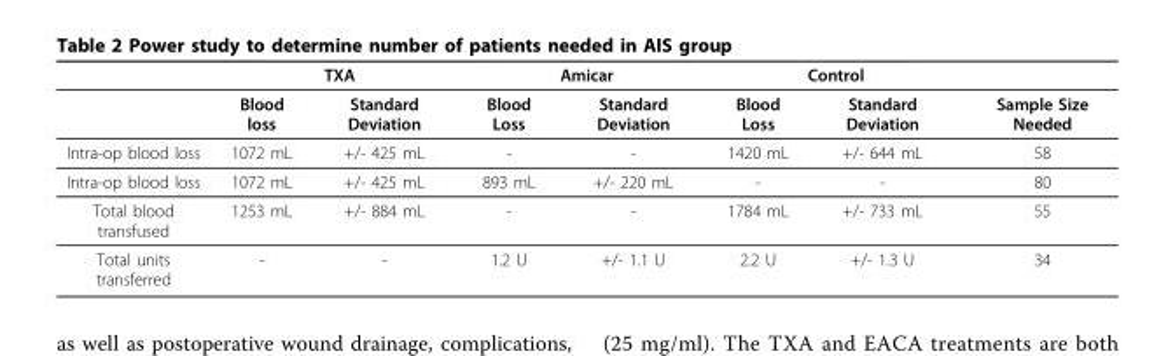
<table><thead><tr><td rowspan="2"></td><td colspan="2">TXA</td><td colspan="2">Amicar</td><td colspan="2">Control</td><td rowspan="2">Sample Size Needed</td></tr><tr><td>Blood loss</td><td>Standard Deviation</td><td>Blood Loss</td><td>Standard Deviation</td><td>Blood Loss</td><td>Standard Deviation</td></tr></thead><tbody><tr><td>Intra-op blood loss</td><td>1072 mL</td><td>+/- 425 mL</td><td>-</td><td>-</td><td>1420 mL</td><td>+/- 644 mL</td><td>58</td></tr><tr><td>Intra-op blood loss</td><td>1072 mL</td><td>+/- 425 mL</td><td>893 mL</td><td>+/- 220 mL</td><td>-</td><td>-</td><td>80</td></tr><tr><td>Total blood transfused</td><td>1253 mL</td><td>+/- 884 mL</td><td>-</td><td>-</td><td>1784 mL</td><td>+/- 733 mL</td><td>55</td></tr><tr><td>Total units transferred</td><td>-</td><td>-</td><td>1.2 U</td><td>+/- 1.1 U</td><td>2.2 U</td><td>+/- 1.3 U</td><td>34</td></tr></tbody></table>